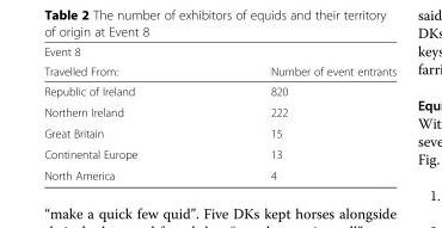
<table><thead><tr><td colspan="2">Event 8</td></tr><tr><td>Travelled From:</td><td>Number of event entrants</td></tr></thead><tbody><tr><td>Republic of Ireland</td><td>820</td></tr><tr><td>Northern Ireland</td><td>222</td></tr><tr><td>Great Britain</td><td>15</td></tr><tr><td>Continental Europe</td><td>13</td></tr><tr><td>North America</td><td>4</td></tr></tbody></table>